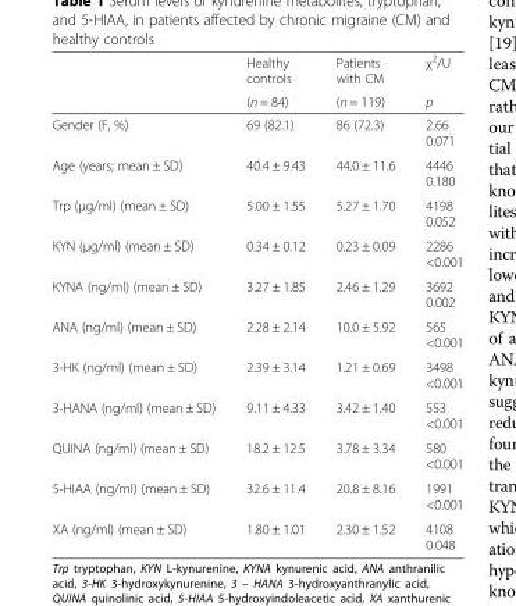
<table><thead><tr><td rowspan="2"></td><td rowspan="2">Healthy controls (n = 84)</td><td rowspan="2">Patients with CM (n = 119)</td><td rowspan="2">χ<sup>2</sup>/U p</td></tr><tr></tr></thead><tbody><tr><td>Gender (F, %)</td><td>69 (82.1)</td><td>86 (72.3)</td><td>2.66 0.071</td></tr><tr><td>Age (years; mean ± SD)</td><td>40.4 ± 9.43</td><td>44.0 ± 11.6</td><td>4446 0.180</td></tr><tr><td>Trp (μg/ml) (mean ± SD)</td><td>5.00 ± 1.55</td><td>5.27 ± 1.70</td><td>4198 0.052</td></tr><tr><td>KYN (μg/ml) (mean ± SD)</td><td>0.34 ± 0.12</td><td>0.23 ± 0.09</td><td>2286 &lt;0.001</td></tr><tr><td>KYNA (ng/ml) (mean ± SD)</td><td>3.27 ± 1.85</td><td>2.46 ± 1.29</td><td>3692 0.002</td></tr><tr><td>ANA (ng/ml) (mean ± SD)</td><td>2.28 ± 2.14</td><td>10.0 ± 5.92</td><td>565 &lt;0.001</td></tr><tr><td>3-HK (ng/ml) (mean ± SD)</td><td>2.39 ± 3.14</td><td>1.21 ± 0.69</td><td>3498 &lt;0.001</td></tr><tr><td>3-HANA (ng/ml) (mean ± SD)</td><td>9.11 ± 4.33</td><td>3.42 ± 1.40</td><td>553 &lt;0.001</td></tr><tr><td>QUINA (ng/ml) (mean ± SD)</td><td>18.2 ± 12.5</td><td>3.78 ± 3.34</td><td>580 &lt;0.001</td></tr><tr><td>5-HIAA (ng/ml) (mean ± SD)</td><td>32.6 ± 11.4</td><td>20.8 ± 8.16</td><td>1991 &lt;0.001</td></tr><tr><td>XA (ng/ml) (mean ± SD)</td><td>1.80 ± 1.01</td><td>2.30 ± 1.52</td><td>4108 0.048</td></tr></tbody></table>